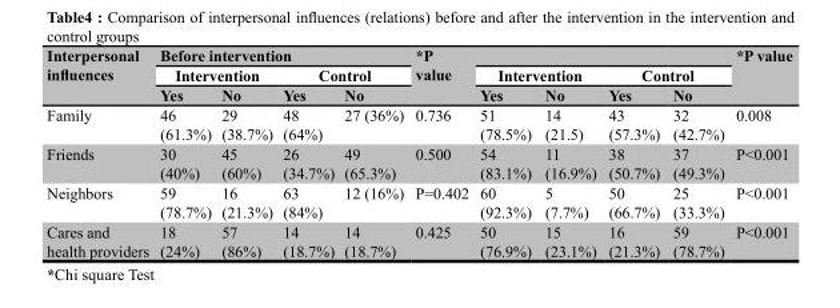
<table><thead><tr><td rowspan="3">Interpersonal influences</td><td colspan="4">Before intervention</td><td rowspan="3">*P value</td><td></td><td></td><td></td><td></td><td rowspan="3">*P value</td></tr><tr><td colspan="2">Intervention</td><td colspan="2">Control</td><td colspan="2">Intervention</td><td colspan="2">Control</td></tr><tr><td>Yes</td><td>No</td><td>Yes</td><td>No</td><td>Yes</td><td>No</td><td>Yes</td><td>No</td></tr></thead><tbody><tr><td>Family</td><td>46 (61.3%)</td><td>29 (38.7%)</td><td>48 (64%)</td><td>27 (36%)</td><td>0.736</td><td>51 (78.5%)</td><td>14 (21.5)</td><td>43 (57.3%)</td><td>32 (42.7%)</td><td>0.008</td></tr><tr><td>Friends</td><td>30 (40%)</td><td>45 (60%)</td><td>26 (34.7%)</td><td>49 (65.3%)</td><td>0.500</td><td>54 (83.1%)</td><td>11 (16.9%)</td><td>38 (50.7%)</td><td>37 (49.3%)</td><td>P&lt;0.001</td></tr><tr><td>Neighbors</td><td>59 (78.7%)</td><td>16 (21.3%)</td><td>63 (84%)</td><td>12 (16%)</td><td>P=0.402</td><td>60 (92.3%)</td><td>5 (7.7%)</td><td>50 (66.7%)</td><td>25 (33.3%)</td><td>P&lt;0.001</td></tr><tr><td>Cares and health providers</td><td>18 (24%)</td><td>57 (86%)</td><td>14 (18.7%)</td><td>14 (18.7%)</td><td>0.425</td><td>50 (76.9%)</td><td>15 (23.1%)</td><td>16 (21.3%)</td><td>59 (78.7%)</td><td>P&lt;0.001</td></tr></tbody></table>